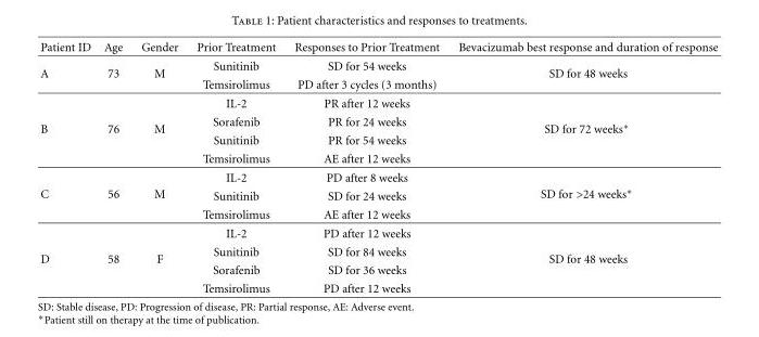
<table><thead><tr><td>Patient ID</td><td>Age</td><td>Gender</td><td>Prior Treatment</td><td>Responses to Prior Treatment</td><td>Bevacizumab best response and duration of response</td></tr></thead><tbody><tr><td rowspan="2">A</td><td rowspan="2">73</td><td rowspan="2">M</td><td>Sunitinib</td><td>SD for 54 weeks</td><td rowspan="2">SD for 48 weeks</td></tr><tr><td>Temsirolimus</td><td>PD after 3 cycles (3 months)</td></tr><tr><td rowspan="4">B</td><td rowspan="4">76</td><td rowspan="4">M</td><td>IL-2</td><td>PR after 12 weeks</td><td rowspan="4">SD for 72 weeks∗</td></tr><tr><td>Sorafenib</td><td>PR for 24 weeks</td></tr><tr><td>Sunitinib</td><td>PR for 54 weeks</td></tr><tr><td>Temsirolimus</td><td>AE after 12 weeks</td></tr><tr><td rowspan="3">C</td><td rowspan="3">56</td><td rowspan="3">M</td><td>IL-2</td><td>PD after 8 weeks</td><td rowspan="3">SD for &gt;24 weeks∗</td></tr><tr><td>Sunitinib</td><td>SD for 24 weeks</td></tr><tr><td>Temsirolimus</td><td>AE after 12 weeks</td></tr><tr><td rowspan="4">D</td><td rowspan="4">58</td><td rowspan="4">F</td><td>IL-2</td><td>PD after 12 weeks</td><td rowspan="4">SD for 48 weeks</td></tr><tr><td>Sunitinib</td><td>SD for 84 weeks</td></tr><tr><td>Sorafenib</td><td>SD for 36 weeks</td></tr><tr><td>Temsirolimus</td><td>PD after 12 weeks</td></tr></tbody></table>